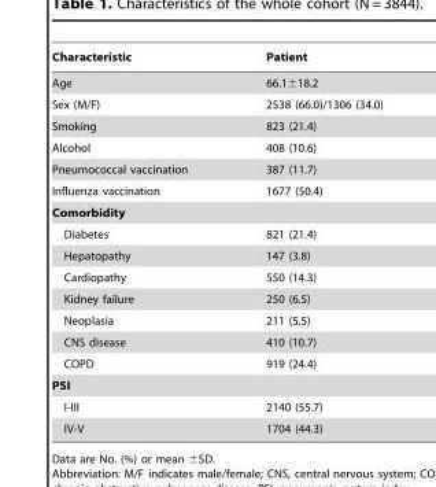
<table><thead><tr><td>Characteristic</td><td>Patient</td></tr></thead><tbody><tr><td>Age</td><td>66.1±18.2</td></tr><tr><td>Sex (M/F)</td><td>2538 (66.0)/1306 (34.0)</td></tr><tr><td>Smoking</td><td>823 (21.4)</td></tr><tr><td>Alcohol</td><td>408 (10.6)</td></tr><tr><td>Pneumococcal vaccination</td><td>387 (11.7)</td></tr><tr><td>Influenza vaccination</td><td>1677 (50.4)</td></tr><tr><td colspan="2">Comorbidity</td></tr><tr><td>Diabetes</td><td>821 (21.4)</td></tr><tr><td>Hepatopathy</td><td>147 (3.8)</td></tr><tr><td>Cardiopathy</td><td>550 (14.3)</td></tr><tr><td>Kidney failure</td><td>250 (6.5)</td></tr><tr><td>Neoplasia</td><td>211 (5.5)</td></tr><tr><td>CNS disease</td><td>410 (10.7)</td></tr><tr><td>COPD</td><td>919 (24.4)</td></tr><tr><td colspan="2">PSI</td></tr><tr><td>I-III</td><td>2140 (55.7)</td></tr><tr><td>IV-V</td><td>1704 (44.3)</td></tr></tbody></table>